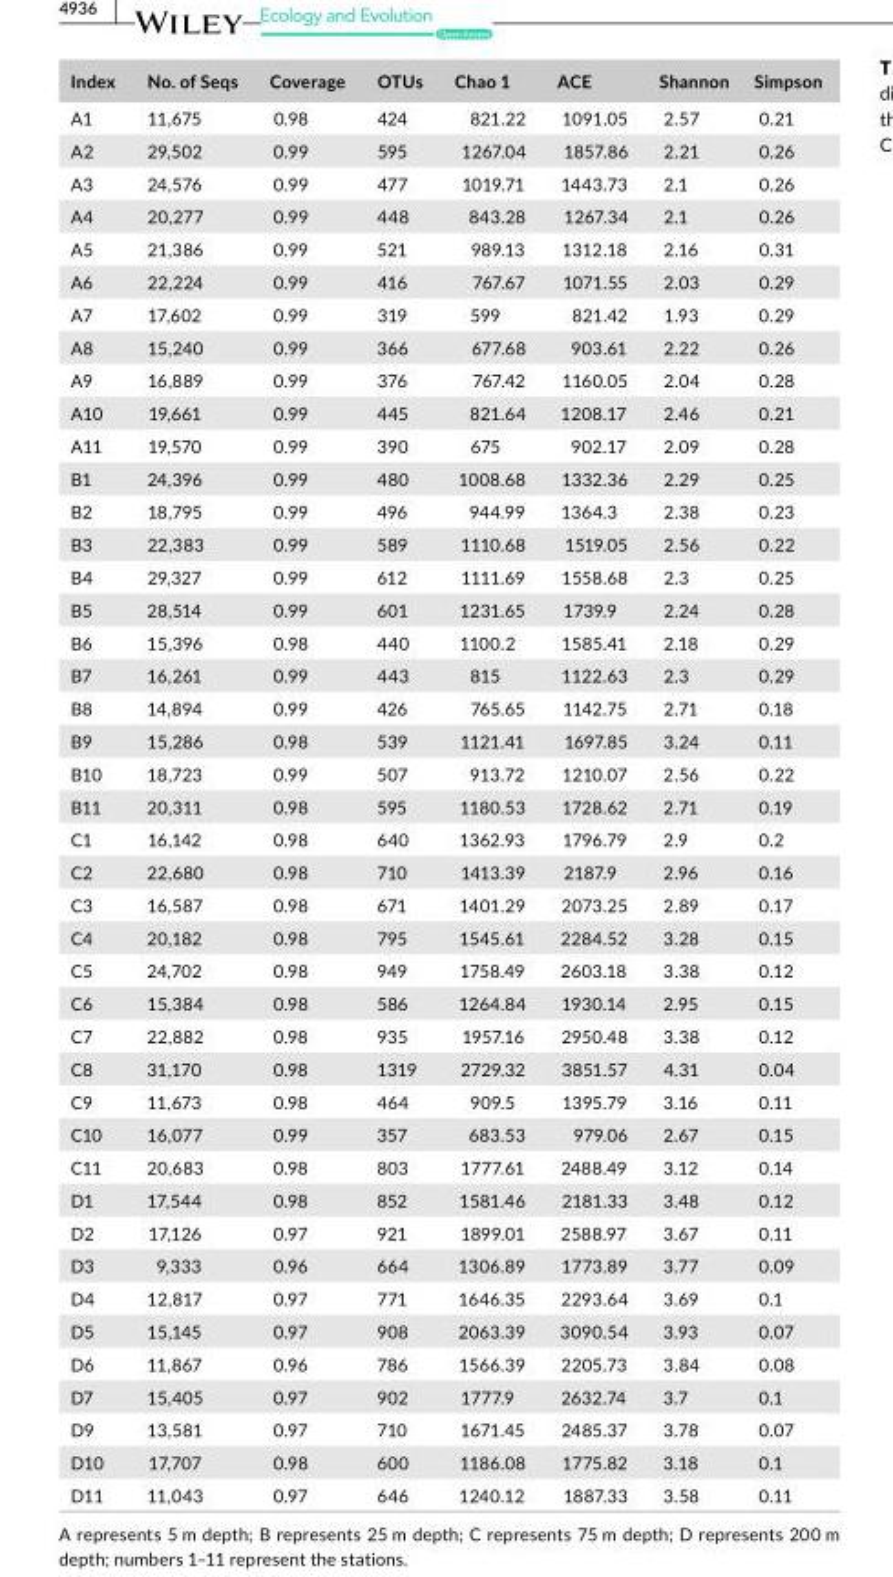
<table><thead><tr><td>Index</td><td>No. of Seqs</td><td>Coverage</td><td>OTUs</td><td>Chao 1</td><td>ACE</td><td>Shannon</td><td>Simpson</td></tr></thead><tbody><tr><td>A1</td><td>11,675</td><td>0.98</td><td>424</td><td>821.22</td><td>1091.05</td><td>2.57</td><td>0.21</td></tr><tr><td>A2</td><td>29,502</td><td>0.99</td><td>595</td><td>1267.04</td><td>1857.86</td><td>2.21</td><td>0.26</td></tr><tr><td>A3</td><td>24,576</td><td>0.99</td><td>477</td><td>1019.71</td><td>1443.73</td><td>2.1</td><td>0.26</td></tr><tr><td>A4</td><td>20,277</td><td>0.99</td><td>448</td><td>843.28</td><td>1267.34</td><td>2.1</td><td>0.26</td></tr><tr><td>A5</td><td>21,386</td><td>0.99</td><td>521</td><td>989.13</td><td>1312.18</td><td>2.16</td><td>0.31</td></tr><tr><td>A6</td><td>22,224</td><td>0.99</td><td>416</td><td>767.67</td><td>1071.55</td><td>2.03</td><td>0.29</td></tr><tr><td>A7</td><td>17,602</td><td>0.99</td><td>319</td><td>599</td><td>821.42</td><td>1.93</td><td>0.29</td></tr><tr><td>A8</td><td>15,240</td><td>0.99</td><td>366</td><td>677.68</td><td>903.61</td><td>2.22</td><td>0.26</td></tr><tr><td>A9</td><td>16,889</td><td>0.99</td><td>376</td><td>767.42</td><td>1160.05</td><td>2.04</td><td>0.28</td></tr><tr><td>A10</td><td>19,661</td><td>0.99</td><td>445</td><td>821.64</td><td>1208.17</td><td>2.46</td><td>0.21</td></tr><tr><td>A11</td><td>19,570</td><td>0.99</td><td>390</td><td>675</td><td>902.17</td><td>2.09</td><td>0.28</td></tr><tr><td>B1</td><td>24,396</td><td>0.99</td><td>480</td><td>1008.68</td><td>1332.36</td><td>2.29</td><td>0.25</td></tr><tr><td>B2</td><td>18,795</td><td>0.99</td><td>496</td><td>944.99</td><td>1364.3</td><td>2.38</td><td>0.23</td></tr><tr><td>B3</td><td>22,383</td><td>0.99</td><td>589</td><td>1110.68</td><td>1519.05</td><td>2.56</td><td>0.22</td></tr><tr><td>B4</td><td>29,327</td><td>0.99</td><td>612</td><td>1111.69</td><td>1558.68</td><td>2.3</td><td>0.25</td></tr><tr><td>B5</td><td>28,514</td><td>0.99</td><td>601</td><td>1231.65</td><td>1739.9</td><td>2.24</td><td>0.28</td></tr><tr><td>B6</td><td>15,396</td><td>0.98</td><td>440</td><td>1100.2</td><td>1585.41</td><td>2.18</td><td>0.29</td></tr><tr><td>B7</td><td>16,261</td><td>0.99</td><td>443</td><td>815</td><td>1122.63</td><td>2.3</td><td>0.29</td></tr><tr><td>B8</td><td>14,894</td><td>0.99</td><td>426</td><td>765.65</td><td>1142.75</td><td>2.71</td><td>0.18</td></tr><tr><td>B9</td><td>15,286</td><td>0.98</td><td>539</td><td>1121.41</td><td>1697.85</td><td>3.24</td><td>0.11</td></tr><tr><td>B10</td><td>18,723</td><td>0.99</td><td>507</td><td>913.72</td><td>1210.07</td><td>2.56</td><td>0.22</td></tr><tr><td>B11</td><td>20,311</td><td>0.98</td><td>595</td><td>1180.53</td><td>1728.62</td><td>2.71</td><td>0.19</td></tr><tr><td>C1</td><td>16,142</td><td>0.98</td><td>640</td><td>1362.93</td><td>1796.79</td><td>2.9</td><td>0.2</td></tr><tr><td>C2</td><td>22,680</td><td>0.98</td><td>710</td><td>1413.39</td><td>2187.9</td><td>2.96</td><td>0.16</td></tr><tr><td>C3</td><td>16,587</td><td>0.98</td><td>671</td><td>1401.29</td><td>2073.25</td><td>2.89</td><td>0.17</td></tr><tr><td>C4</td><td>20,182</td><td>0.98</td><td>795</td><td>1545.61</td><td>2284.52</td><td>3.28</td><td>0.15</td></tr><tr><td>C5</td><td>24,702</td><td>0.98</td><td>949</td><td>1758.49</td><td>2603.18</td><td>3.38</td><td>0.12</td></tr><tr><td>C6</td><td>15,384</td><td>0.98</td><td>586</td><td>1264.84</td><td>1930.14</td><td>2.95</td><td>0.15</td></tr><tr><td>C7</td><td>22,882</td><td>0.98</td><td>935</td><td>1957.16</td><td>2950.48</td><td>3.38</td><td>0.12</td></tr><tr><td>C8</td><td>31,170</td><td>0.98</td><td>1319</td><td>2729.32</td><td>3851.57</td><td>4.31</td><td>0.04</td></tr><tr><td>C9</td><td>11,673</td><td>0.98</td><td>464</td><td>909.5</td><td>1395.79</td><td>3.16</td><td>0.11</td></tr><tr><td>C10</td><td>16,077</td><td>0.99</td><td>357</td><td>683.53</td><td>979.06</td><td>2.67</td><td>0.15</td></tr><tr><td>C11</td><td>20,683</td><td>0.98</td><td>803</td><td>1777.61</td><td>2488.49</td><td>3.12</td><td>0.14</td></tr><tr><td>D1</td><td>17,544</td><td>0.98</td><td>852</td><td>1581.46</td><td>2181.33</td><td>3.48</td><td>0.12</td></tr><tr><td>D2</td><td>17,126</td><td>0.97</td><td>921</td><td>1899.01</td><td>2588.97</td><td>3.67</td><td>0.11</td></tr><tr><td>D3</td><td>9,333</td><td>0.96</td><td>664</td><td>1306.89</td><td>1773.89</td><td>3.77</td><td>0.09</td></tr><tr><td>D4</td><td>12,817</td><td>0.97</td><td>771</td><td>1646.35</td><td>2293.64</td><td>3.69</td><td>0.1</td></tr><tr><td>D5</td><td>15,145</td><td>0.97</td><td>908</td><td>2063.39</td><td>3090.54</td><td>3.93</td><td>0.07</td></tr><tr><td>D6</td><td>11,867</td><td>0.96</td><td>786</td><td>1566.39</td><td>2205.73</td><td>3.84</td><td>0.08</td></tr><tr><td>D7</td><td>15,405</td><td>0.97</td><td>902</td><td>1777.9</td><td>2632.74</td><td>3.7</td><td>0.1</td></tr><tr><td>D9</td><td>13,581</td><td>0.97</td><td>710</td><td>1671.45</td><td>2485.37</td><td>3.78</td><td>0.07</td></tr><tr><td>D10</td><td>17,707</td><td>0.98</td><td>600</td><td>1186.08</td><td>1775.82</td><td>3.18</td><td>0.1</td></tr><tr><td>D11</td><td>11,043</td><td>0.97</td><td>646</td><td>1240.12</td><td>1887.33</td><td>3.58</td><td>0.11</td></tr></tbody></table>